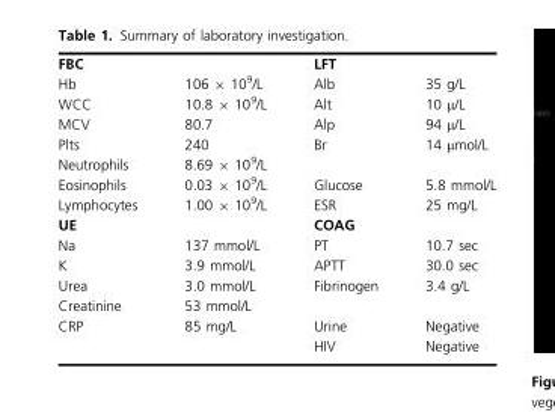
<table><tbody><tr><td colspan="2">FBC</td><td colspan="2">LFT</td></tr><tr><td>Hb</td><td>106 × 10<sup>9</sup>/L</td><td>Alb</td><td>35 g/L</td></tr><tr><td>WCC</td><td>10.8 × 10<sup>9</sup>/L</td><td>Alt</td><td>10 μ/L</td></tr><tr><td>MCV</td><td>80.7</td><td>Alp</td><td>94 μ/L</td></tr><tr><td>Plts</td><td>240</td><td>Br</td><td>14 μmol/L</td></tr><tr><td>Neutrophils</td><td>8.69 × 10<sup>9</sup>/L</td><td></td><td></td></tr><tr><td>Eosinophils</td><td>0.03 × 10<sup>9</sup>/L</td><td>Glucose</td><td>5.8 mmol/L</td></tr><tr><td>Lymphocytes</td><td>1.00 × 10<sup>9</sup>/L</td><td>ESR</td><td>25 mg/L</td></tr><tr><td colspan="2">UE</td><td colspan="2">COAG</td></tr><tr><td>Na</td><td>137 mmol/L</td><td>PT</td><td>10.7 sec</td></tr><tr><td>K</td><td>3.9 mmol/L</td><td>APTT</td><td>30.0 sec</td></tr><tr><td>Urea</td><td>3.0 mmol/L</td><td>Fibrinogen</td><td>3.4 g/L</td></tr><tr><td>Creatinine</td><td>53 mmol/L</td><td></td><td></td></tr><tr><td rowspan="2">CRP</td><td>85 mg/L</td><td>Urine</td><td>Negative</td></tr><tr><td></td><td>HIV</td><td>Negative</td></tr></tbody></table>